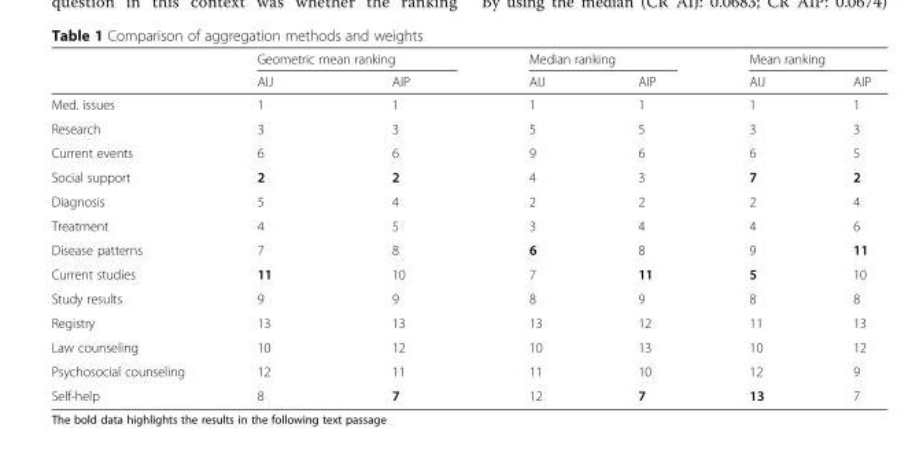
<table><thead><tr><td rowspan="2"></td><td colspan="2">Geometric mean ranking</td><td colspan="2">Median ranking</td><td colspan="2">Mean ranking</td></tr><tr><td>AIJ</td><td>AIP</td><td>AIJ</td><td>AIP</td><td>AIJ</td><td>AIP</td></tr></thead><tbody><tr><td>Med. issues</td><td>1</td><td>1</td><td>1</td><td>1</td><td>1</td><td>1</td></tr><tr><td>Research</td><td>3</td><td>3</td><td>5</td><td>5</td><td>3</td><td>3</td></tr><tr><td>Current events</td><td>6</td><td>6</td><td>9</td><td>6</td><td>6</td><td>5</td></tr><tr><td>Social support</td><td>2</td><td>2</td><td>4</td><td>3</td><td>7</td><td>2</td></tr><tr><td>Diagnosis</td><td>5</td><td>4</td><td>2</td><td>2</td><td>2</td><td>4</td></tr><tr><td>Treatment</td><td>4</td><td>5</td><td>3</td><td>4</td><td>4</td><td>6</td></tr><tr><td>Disease patterns</td><td>7</td><td>8</td><td>6</td><td>8</td><td>9</td><td>11</td></tr><tr><td>Current studies</td><td>11</td><td>10</td><td>7</td><td>11</td><td>5</td><td>10</td></tr><tr><td>Study results</td><td>9</td><td>9</td><td>8</td><td>9</td><td>8</td><td>8</td></tr><tr><td>Registry</td><td>13</td><td>13</td><td>13</td><td>12</td><td>11</td><td>13</td></tr><tr><td>Law counseling</td><td>10</td><td>12</td><td>10</td><td>13</td><td>10</td><td>12</td></tr><tr><td>Psychosocial counseling</td><td>12</td><td>11</td><td>11</td><td>10</td><td>12</td><td>9</td></tr><tr><td>Self-help</td><td>8</td><td>7</td><td>12</td><td>7</td><td>13</td><td>7</td></tr></tbody></table>